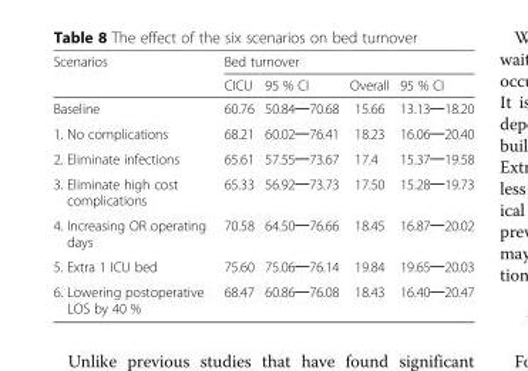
<table><thead><tr><td rowspan="2">Scenarios</td><td colspan="4">Bed turnover</td></tr><tr><td>CICU</td><td>95 % CI</td><td>Overall</td><td>95 % CI</td></tr></thead><tbody><tr><td>Baseline</td><td>60.76</td><td>50.84─70.68</td><td>15.66</td><td>13.13─18.20</td></tr><tr><td>1. No complications</td><td>68.21</td><td>60.02─76.41</td><td>18.23</td><td>16.06─20.40</td></tr><tr><td>2. Eliminate infections</td><td>65.61</td><td>57.55─73.67</td><td>17.4</td><td>15.37─19.58</td></tr><tr><td>3. Eliminate high cost complications</td><td>65.33</td><td>56.92─73.73</td><td>17.50</td><td>15.28─19.73</td></tr><tr><td>4. Increasing OR operating days</td><td>70.58</td><td>64.50─76.66</td><td>18.45</td><td>16.87─20.02</td></tr><tr><td>5. Extra 1 ICU bed</td><td>75.60</td><td>75.06─76.14</td><td>19.84</td><td>19.65─20.03</td></tr><tr><td>6. Lowering postoperative LOS by 40 %</td><td>68.47</td><td>60.86─76.08</td><td>18.43</td><td>16.40─20.47</td></tr></tbody></table>